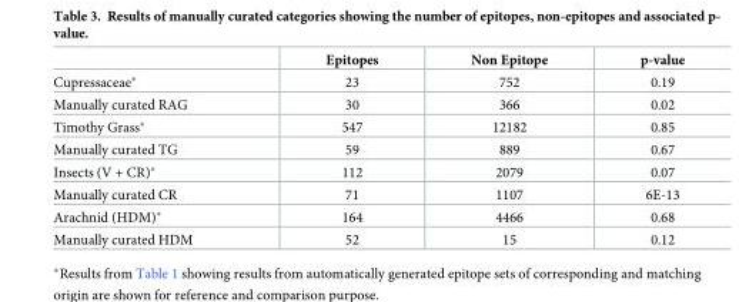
<table><thead><tr><td></td><td>Epitopes</td><td>Non Epitope</td><td>p-value</td></tr></thead><tbody><tr><td>Cupressaceae*</td><td>23</td><td>752</td><td>0.19</td></tr><tr><td>Manually curated RAG</td><td>30</td><td>366</td><td>0.02</td></tr><tr><td>Timothy Grass*</td><td>547</td><td>12182</td><td>0.85</td></tr><tr><td>Manually curated TG</td><td>59</td><td>889</td><td>0.67</td></tr><tr><td>Insects (V + CR)*</td><td>112</td><td>2079</td><td>0.07</td></tr><tr><td>Manually curated CR</td><td>71</td><td>1107</td><td>6E-13</td></tr><tr><td>Arachnid (HDM)*</td><td>164</td><td>4466</td><td>0.68</td></tr><tr><td>Manually curated HDM</td><td>52</td><td>15</td><td>0.12</td></tr></tbody></table>